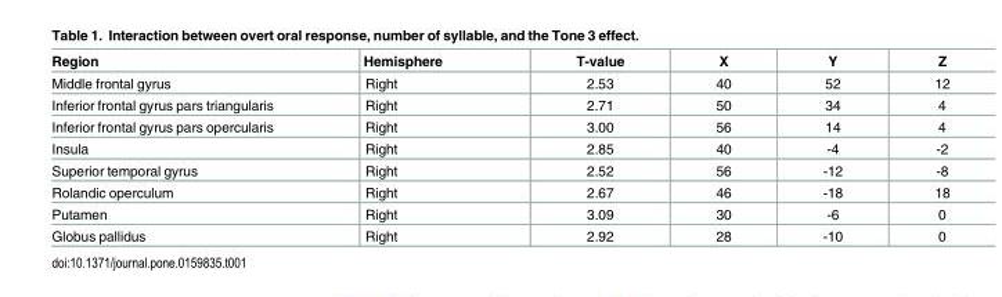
<table><thead><tr><td>Region</td><td>Hemisphere</td><td>T-value</td><td>X</td><td>Y</td><td>Z</td></tr></thead><tbody><tr><td>Middle frontal gyrus</td><td>Right</td><td>2.53</td><td>40</td><td>52</td><td>12</td></tr><tr><td>Inferior frontal gyrus pars triangularis</td><td>Right</td><td>2.71</td><td>50</td><td>34</td><td>4</td></tr><tr><td>Inferior frontal gyrus pars opercularis</td><td>Right</td><td>3.00</td><td>56</td><td>14</td><td>4</td></tr><tr><td>Insula</td><td>Right</td><td>2.85</td><td>40</td><td>-4</td><td>-2</td></tr><tr><td>Superior temporal gyrus</td><td>Right</td><td>2.52</td><td>56</td><td>-12</td><td>-8</td></tr><tr><td>Rolandic operculum</td><td>Right</td><td>2.67</td><td>46</td><td>-18</td><td>18</td></tr><tr><td>Putamen</td><td>Right</td><td>3.09</td><td>30</td><td>-6</td><td>0</td></tr><tr><td>Globus pallidus</td><td>Right</td><td>2.92</td><td>28</td><td>-10</td><td>0</td></tr></tbody></table>